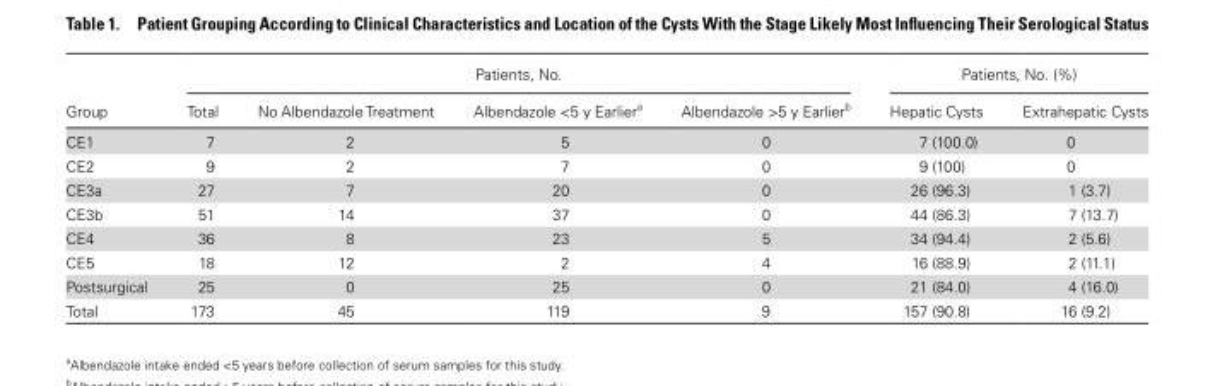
<table><thead><tr><td rowspan="2">Group</td><td colspan="4">Patients, No.</td><td colspan="2">Patients, No. (%)</td></tr><tr><td>Total</td><td>No Albendazole Treatment</td><td>Albendazole &lt;5 y Earlier<sup>a</sup></td><td>Albendazole &gt;5 y Earlier<sup>b</sup></td><td>Hepatic Cysts</td><td>Extrahepatic Cysts</td></tr></thead><tbody><tr><td>CE1</td><td>7</td><td>2</td><td>5</td><td>0</td><td>7 (100.0)</td><td>0</td></tr><tr><td>CE2</td><td>9</td><td>2</td><td>7</td><td>0</td><td>9 (100)</td><td>0</td></tr><tr><td>CE3a</td><td>27</td><td>7</td><td>20</td><td>0</td><td>26 (96.3)</td><td>1 (3.7)</td></tr><tr><td>CE3b</td><td>51</td><td>14</td><td>37</td><td>0</td><td>44 (86.3)</td><td>7 (13.7)</td></tr><tr><td>CE4</td><td>36</td><td>8</td><td>23</td><td>5</td><td>34 (94.4)</td><td>2 (5.6)</td></tr><tr><td>CE5</td><td>18</td><td>12</td><td>2</td><td>4</td><td>16 (88.9)</td><td>2 (11.1)</td></tr><tr><td>Postsurgical</td><td>25</td><td>0</td><td>25</td><td>0</td><td>21 (84.0)</td><td>4 (16.0)</td></tr><tr><td>Total</td><td>173</td><td>45</td><td>119</td><td>9</td><td>157 (90.8)</td><td>16 (9.2)</td></tr></tbody></table>